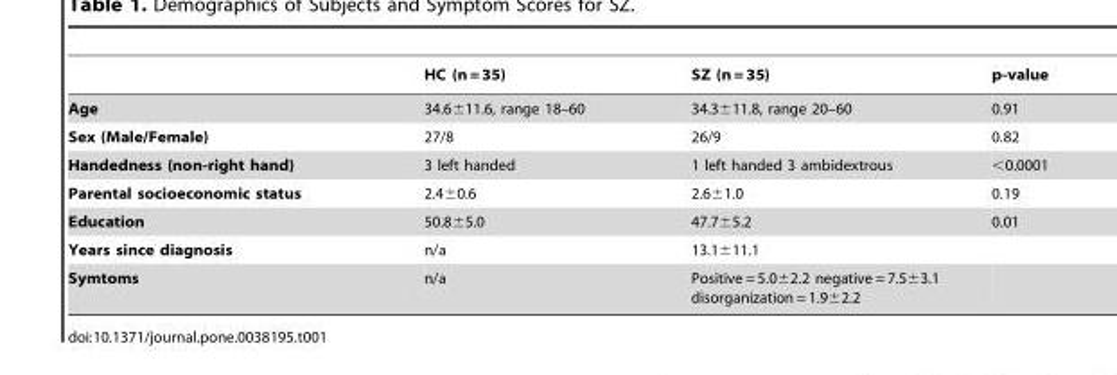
<table><thead><tr><td></td><td>HC (n = 35)</td><td>SZ (n = 35)</td><td>p-value</td></tr></thead><tbody><tr><td>Age</td><td>34.6±11.6, range 18–60</td><td>34.3±11.8, range 20–60</td><td>0.91</td></tr><tr><td>Sex (Male/Female)</td><td>27/8</td><td>26/9</td><td>0.82</td></tr><tr><td>Handedness (non-right hand)</td><td>3 left handed</td><td>1 left handed 3 ambidextrous</td><td>&lt;0.0001</td></tr><tr><td>Parental socioeconomic status</td><td>2.4±0.6</td><td>2.6±1.0</td><td>0.19</td></tr><tr><td>Education</td><td>50.8±5.0</td><td>47.7±5.2</td><td>0.01</td></tr><tr><td>Years since diagnosis</td><td>n/a</td><td>13.1±11.1</td><td></td></tr><tr><td>Symtoms</td><td>n/a</td><td>Positive = 5.0±2.2 negative = 7.5±3.1 disorganization = 1.9±2.2</td><td></td></tr></tbody></table>